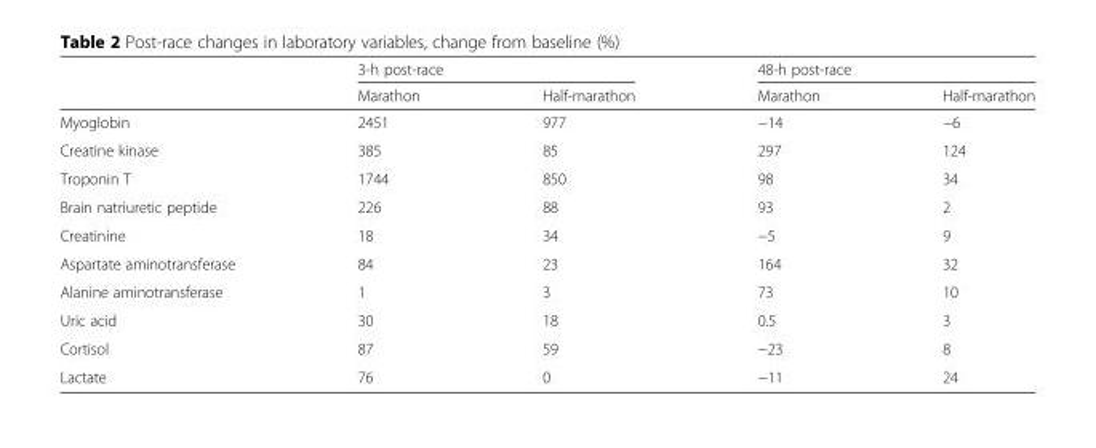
<table><thead><tr><td rowspan="2"></td><td colspan="2">3-h post-race</td><td colspan="2">48-h post-race</td></tr><tr><td>Marathon</td><td>Half-marathon</td><td>Marathon</td><td>Half-marathon</td></tr></thead><tbody><tr><td>Myoglobin</td><td>2451</td><td>977</td><td>−14</td><td>−6</td></tr><tr><td>Creatine kinase</td><td>385</td><td>85</td><td>297</td><td>124</td></tr><tr><td>Troponin T</td><td>1744</td><td>850</td><td>98</td><td>34</td></tr><tr><td>Brain natriuretic peptide</td><td>226</td><td>88</td><td>93</td><td>2</td></tr><tr><td>Creatinine</td><td>18</td><td>34</td><td>−5</td><td>9</td></tr><tr><td>Aspartate aminotransferase</td><td>84</td><td>23</td><td>164</td><td>32</td></tr><tr><td>Alanine aminotransferase</td><td>1</td><td>3</td><td>73</td><td>10</td></tr><tr><td>Uric acid</td><td>30</td><td>18</td><td>0.5</td><td>3</td></tr><tr><td>Cortisol</td><td>87</td><td>59</td><td>−23</td><td>8</td></tr><tr><td>Lactate</td><td>76</td><td>0</td><td>−11</td><td>24</td></tr></tbody></table>